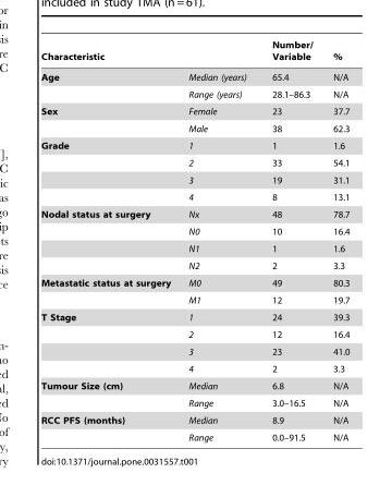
<table><thead><tr><td colspan="2">Characteristic</td><td rowspan="2">Number/ Variable 65.4</td><td rowspan="2">% N/A</td></tr><tr><td>Age</td><td>Median (years)</td></tr></thead><tbody><tr><td></td><td>Range (years)</td><td>28.1–86.3</td><td>N/A</td></tr><tr><td rowspan="2">Sex</td><td>Female</td><td>23</td><td>37.7</td></tr><tr><td>Male</td><td>38</td><td>62.3</td></tr><tr><td rowspan="4">Grade</td><td>1</td><td>1</td><td>1.6</td></tr><tr><td>2</td><td>33</td><td>54.1</td></tr><tr><td>3</td><td>19</td><td>31.1</td></tr><tr><td>4</td><td>8</td><td>13.1</td></tr><tr><td rowspan="4">Nodal status at surgery</td><td>Nx</td><td>48</td><td>78.7</td></tr><tr><td>N0</td><td>10</td><td>16.4</td></tr><tr><td>N1</td><td>1</td><td>1.6</td></tr><tr><td>N2</td><td>2</td><td>3.3</td></tr><tr><td rowspan="2">Metastatic status at surgery</td><td>M0</td><td>49</td><td>80.3</td></tr><tr><td>M1</td><td>12</td><td>19.7</td></tr><tr><td rowspan="4">T Stage</td><td>1</td><td>24</td><td>39.3</td></tr><tr><td>2</td><td>12</td><td>16.4</td></tr><tr><td>3</td><td>23</td><td>41.0</td></tr><tr><td>4</td><td>2</td><td>3.3</td></tr><tr><td rowspan="2">Tumour Size (cm)</td><td>Median</td><td>6.8</td><td>N/A</td></tr><tr><td>Range</td><td>3.0–16.5</td><td>N/A</td></tr><tr><td rowspan="2">RCC PFS (months)</td><td>Median</td><td>8.9</td><td>N/A</td></tr><tr><td>Range</td><td>0.0–91.5</td><td>N/A</td></tr></tbody></table>